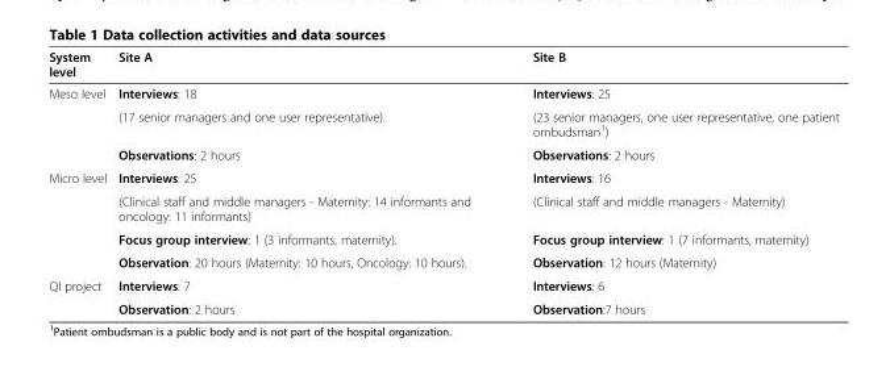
<table><thead><tr><td>System level</td><td>Site A</td><td>Site B</td></tr></thead><tbody><tr><td rowspan="3">Meso level</td><td>Interviews: 18</td><td>Interviews: 25</td></tr><tr><td>(17 senior managers and one user representative).</td><td>(23 senior managers, one user representative, one patient ombudsman<sup>1</sup>)</td></tr><tr><td>Observations: 2 hours</td><td>Observations: 2 hours</td></tr><tr><td rowspan="4">Micro level</td><td>Interviews: 25</td><td>Interviews: 16</td></tr><tr><td>(Clinical staff and middle managers - Maternity: 14 informants and oncology: 11 informants)</td><td>(Clinical staff and middle managers - Maternity)</td></tr><tr><td>Focus group interview: 1 (3 informants, maternity).</td><td>Focus group interview: 1 (7 informants, maternity)</td></tr><tr><td>Observation: 20 hours (Maternity: 10 hours, Oncology: 10 hours).</td><td>Observation: 12 hours (Maternity)</td></tr><tr><td rowspan="2">QI project</td><td>Interviews: 7</td><td>Interviews: 6</td></tr><tr><td>Observation: 2 hours</td><td>Observation:7 hours</td></tr></tbody></table>